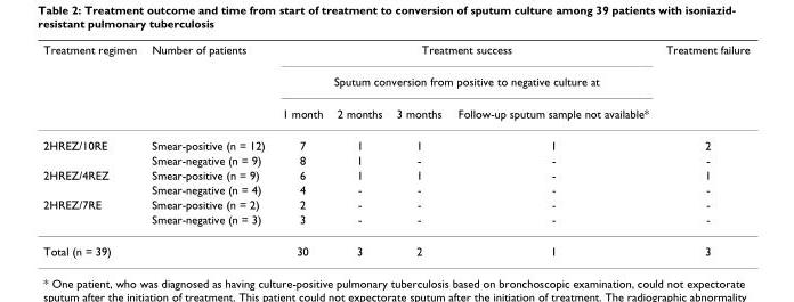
<table><thead><tr><td rowspan="3">Treatment regimen</td><td rowspan="3">Number of patients</td><td rowspan="2" colspan="4">Treatment success Sputum conversion from positive to negative culture at</td><td rowspan="3">Treatment failure</td></tr><tr></tr><tr><td>1 month</td><td>2 months</td><td>3 months</td><td>Follow-up sputum sample not available*</td></tr></thead><tbody><tr><td rowspan="2">2HREZ/10RE</td><td>Smear-positive (n = 12)</td><td>7</td><td>1</td><td>1</td><td>1</td><td>2</td></tr><tr><td>Smear-negative (n = 9)</td><td>8</td><td>1</td><td>-</td><td>-</td><td>-</td></tr><tr><td rowspan="2">2HREZ/4REZ</td><td>Smear-positive (n = 9)</td><td>6</td><td>1</td><td>1</td><td>-</td><td>1</td></tr><tr><td>Smear-negative (n = 4)</td><td>4</td><td>-</td><td>-</td><td>-</td><td>-</td></tr><tr><td rowspan="2">2HREZ/7RE</td><td>Smear-positive (n = 2)</td><td>2</td><td>-</td><td>-</td><td>-</td><td>-</td></tr><tr><td>Smear-negative (n = 3)</td><td>3</td><td>-</td><td>-</td><td>-</td><td>-</td></tr><tr><td>Total (n = 39)</td><td></td><td>30</td><td>3</td><td>2</td><td>1</td><td>3</td></tr></tbody></table>